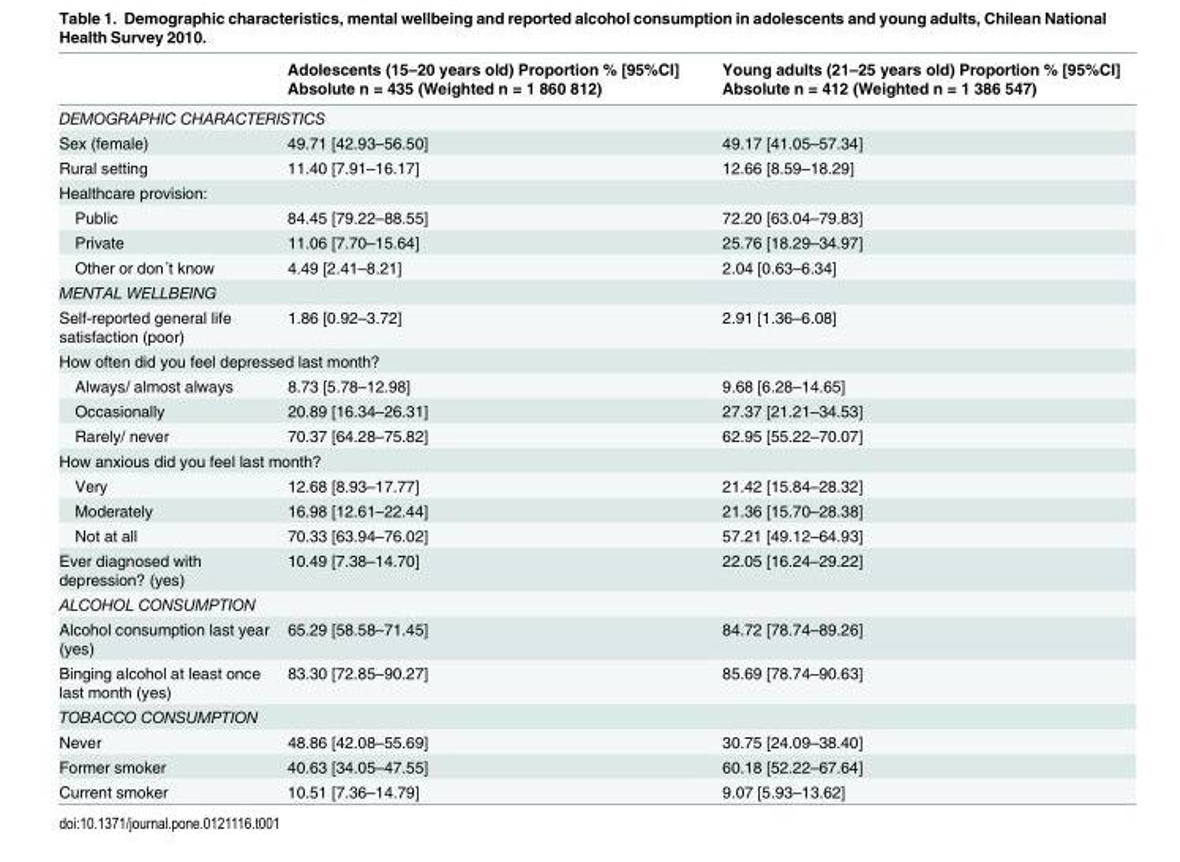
<table><thead><tr><td></td><td>Adolescents (15–20 years old) Proportion % [95%CI] Absolute n = 435 (Weighted n = 1 860 812)</td><td>Young adults (21–25 years old) Proportion % [95%CI] Absolute n = 412 (Weighted n = 1 386 547)</td></tr></thead><tbody><tr><td colspan="3">DEMOGRAPHIC CHARACTERISTICS</td></tr><tr><td>Sex (female)</td><td>49.71 [42.93–56.50]</td><td>49.17 [41.05–57.34]</td></tr><tr><td>Rural setting</td><td>11.40 [7.91–16.17]</td><td>12.66 [8.59–18.29]</td></tr><tr><td colspan="3">Healthcare provision:</td></tr><tr><td>Public</td><td>84.45 [79.22–88.55]</td><td>72.20 [63.04–79.83]</td></tr><tr><td>Private</td><td>11.06 [7.70–15.64]</td><td>25.76 [18.29–34.97]</td></tr><tr><td>Other or don´t know</td><td>4.49 [2.41–8.21]</td><td>2.04 [0.63–6.34]</td></tr><tr><td colspan="3">MENTAL WELLBEING</td></tr><tr><td>Self-reported general life satisfaction (poor)</td><td>1.86 [0.92–3.72]</td><td>2.91 [1.36–6.08]</td></tr><tr><td colspan="3">How often did you feel depressed last month?</td></tr><tr><td>Always/ almost always</td><td>8.73 [5.78–12.98]</td><td>9.68 [6.28–14.65]</td></tr><tr><td>Occasionally</td><td>20.89 [16.34–26.31]</td><td>27.37 [21.21–34.53]</td></tr><tr><td>Rarely/ never</td><td>70.37 [64.28–75.82]</td><td>62.95 [55.22–70.07]</td></tr><tr><td colspan="3">How anxious did you feel last month?</td></tr><tr><td>Very</td><td>12.68 [8.93–17.77]</td><td>21.42 [15.84–28.32]</td></tr><tr><td>Moderately</td><td>16.98 [12.61–22.44]</td><td>21.36 [15.70–28.38]</td></tr><tr><td>Not at all</td><td>70.33 [63.94–76.02]</td><td>57.21 [49.12–64.93]</td></tr><tr><td>Ever diagnosed with depression? (yes)</td><td>10.49 [7.38–14.70]</td><td>22.05 [16.24–29.22]</td></tr><tr><td colspan="3">ALCOHOL CONSUMPTION</td></tr><tr><td>Alcohol consumption last year (yes)</td><td>65.29 [58.58–71.45]</td><td>84.72 [78.74–89.26]</td></tr><tr><td>Binging alcohol at least once last month (yes)</td><td>83.30 [72.85–90.27]</td><td>85.69 [78.74–90.63]</td></tr><tr><td colspan="3">TOBACCO CONSUMPTION</td></tr><tr><td>Never</td><td>48.86 [42.08–55.69]</td><td>30.75 [24.09–38.40]</td></tr><tr><td>Former smoker</td><td>40.63 [34.05–47.55]</td><td>60.18 [52.22–67.64]</td></tr><tr><td>Current smoker</td><td>10.51 [7.36–14.79]</td><td>9.07 [5.93–13.62]</td></tr></tbody></table>